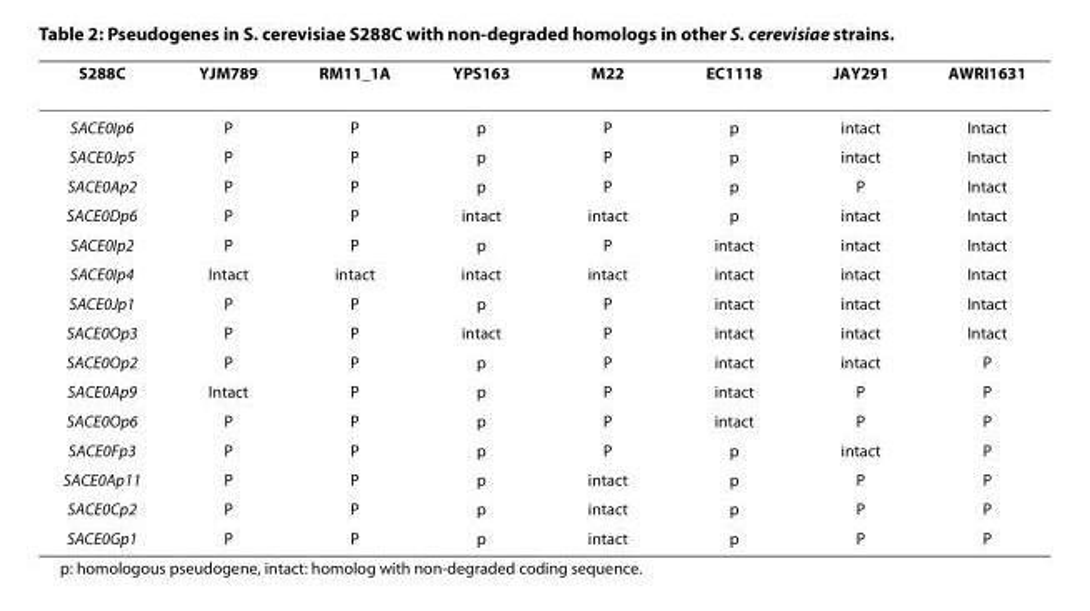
<table><thead><tr><td>S288C</td><td>YJM789</td><td>RM11_1A</td><td>YPS163</td><td>M22</td><td>EC1118</td><td>JAY291</td><td>AWRI1631</td></tr></thead><tbody><tr><td>SACE0Ip6</td><td>P</td><td>P</td><td>p</td><td>P</td><td>p</td><td>intact</td><td>Intact</td></tr><tr><td>SACE0Jp5</td><td>P</td><td>P</td><td>p</td><td>P</td><td>p</td><td>intact</td><td>Intact</td></tr><tr><td>SACE0Ap2</td><td>P</td><td>P</td><td>p</td><td>P</td><td>p</td><td>P</td><td>Intact</td></tr><tr><td>SACE0Dp6</td><td>P</td><td>P</td><td>intact</td><td>intact</td><td>p</td><td>intact</td><td>Intact</td></tr><tr><td>SACE0Ip2</td><td>P</td><td>P</td><td>p</td><td>P</td><td>intact</td><td>intact</td><td>Intact</td></tr><tr><td>SACE0Ip4</td><td>Intact</td><td>intact</td><td>intact</td><td>intact</td><td>intact</td><td>intact</td><td>Intact</td></tr><tr><td>SACE0Jp1</td><td>P</td><td>P</td><td>p</td><td>P</td><td>intact</td><td>intact</td><td>Intact</td></tr><tr><td>SACE0Op3</td><td>P</td><td>P</td><td>intact</td><td>P</td><td>intact</td><td>intact</td><td>Intact</td></tr><tr><td>SACE0Op2</td><td>P</td><td>P</td><td>p</td><td>P</td><td>intact</td><td>intact</td><td>P</td></tr><tr><td>SACE0Ap9</td><td>Intact</td><td>P</td><td>p</td><td>P</td><td>intact</td><td>P</td><td>P</td></tr><tr><td>SACE0Op6</td><td>P</td><td>P</td><td>p</td><td>P</td><td>intact</td><td>P</td><td>P</td></tr><tr><td>SACE0Fp3</td><td>P</td><td>P</td><td>p</td><td>P</td><td>p</td><td>intact</td><td>P</td></tr><tr><td>SACE0Ap11</td><td>P</td><td>P</td><td>p</td><td>intact</td><td>p</td><td>P</td><td>P</td></tr><tr><td>SACE0Cp2</td><td>P</td><td>P</td><td>p</td><td>intact</td><td>p</td><td>P</td><td>P</td></tr><tr><td>SACE0Gp1</td><td>P</td><td>P</td><td>p</td><td>intact</td><td>p</td><td>P</td><td>P</td></tr></tbody></table>